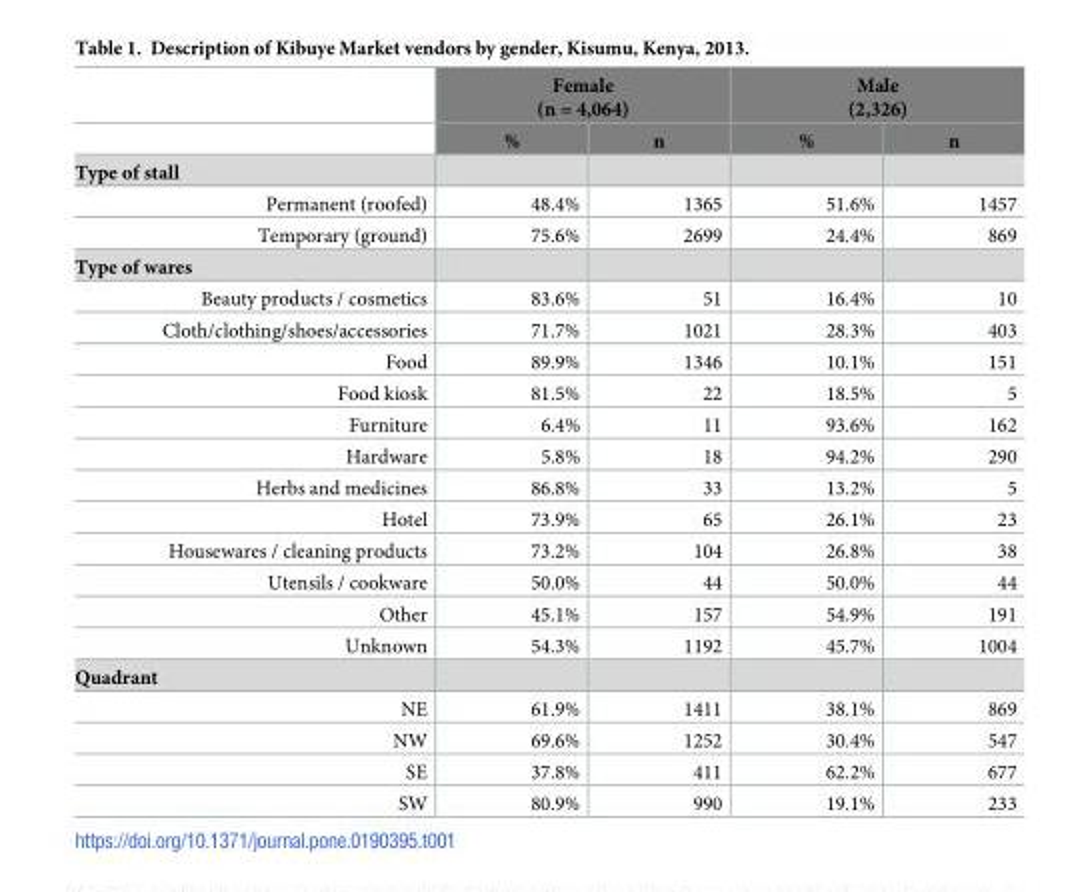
<table><thead><tr><td rowspan="2"></td><td colspan="2">Female (n = 4,064)</td><td colspan="2">Male (2,326)</td></tr><tr><td>%</td><td>n</td><td>%</td><td>n</td></tr></thead><tbody><tr><td colspan="5">Type of stall</td></tr><tr><td>Permanent (roofed)</td><td>48.4%</td><td>1365</td><td>51.6%</td><td>1457</td></tr><tr><td>Temporary (ground)</td><td>75.6%</td><td>2699</td><td>24.4%</td><td>869</td></tr><tr><td colspan="5">Type of wares</td></tr><tr><td>Beauty products / cosmetics</td><td>83.6%</td><td>51</td><td>16.4%</td><td>10</td></tr><tr><td>Cloth/clothing/shoes/accessories</td><td>71.7%</td><td>1021</td><td>28.3%</td><td>403</td></tr><tr><td>Food</td><td>89.9%</td><td>1346</td><td>10.1%</td><td>151</td></tr><tr><td>Food kiosk</td><td>81.5%</td><td>22</td><td>18.5%</td><td>5</td></tr><tr><td>Furniture</td><td>6.4%</td><td>11</td><td>93.6%</td><td>162</td></tr><tr><td>Hardware</td><td>5.8%</td><td>18</td><td>94.2%</td><td>290</td></tr><tr><td>Herbs and medicines</td><td>86.8%</td><td>33</td><td>13.2%</td><td>5</td></tr><tr><td>Hotel</td><td>73.9%</td><td>65</td><td>26.1%</td><td>23</td></tr><tr><td>Housewares / cleaning products</td><td>73.2%</td><td>104</td><td>26.8%</td><td>38</td></tr><tr><td>Utensils / cookware</td><td>50.0%</td><td>44</td><td>50.0%</td><td>44</td></tr><tr><td>Other</td><td>45.1%</td><td>157</td><td>54.9%</td><td>191</td></tr><tr><td>Unknown</td><td>54.3%</td><td>1192</td><td>45.7%</td><td>1004</td></tr><tr><td colspan="5">Quadrant</td></tr><tr><td>NE</td><td>61.9%</td><td>1411</td><td>38.1%</td><td>869</td></tr><tr><td>NW</td><td>69.6%</td><td>1252</td><td>30.4%</td><td>547</td></tr><tr><td>SE</td><td>37.8%</td><td>411</td><td>62.2%</td><td>677</td></tr><tr><td>SW</td><td>80.9%</td><td>990</td><td>19.1%</td><td>233</td></tr></tbody></table>